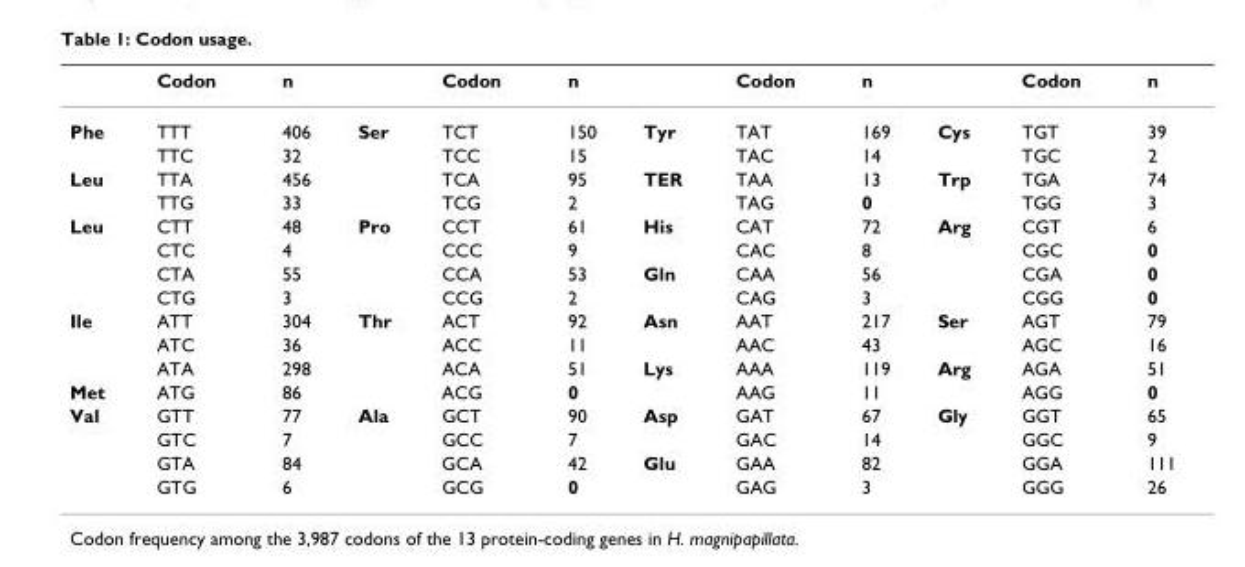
<table><thead><tr><td></td><td>Codon</td><td>n</td><td></td><td>Codon</td><td>n</td><td></td><td>Codon</td><td>n</td><td></td><td>Codon</td><td>n</td></tr></thead><tbody><tr><td rowspan="2">Phe</td><td>TTT</td><td>406</td><td>Ser</td><td>TCT</td><td>150</td><td>Tyr</td><td>TAT</td><td>169</td><td>Cys</td><td>TGT</td><td>39</td></tr><tr><td>TTC</td><td>32</td><td></td><td>TCC</td><td>15</td><td></td><td>TAC</td><td>14</td><td></td><td>TGC</td><td>2</td></tr><tr><td rowspan="2">Leu</td><td>TTA</td><td>456</td><td></td><td>TCA</td><td>95</td><td>TER</td><td>TAA</td><td>13</td><td>Trp</td><td>TGA</td><td>74</td></tr><tr><td>TTG</td><td>33</td><td></td><td>TCG</td><td>2</td><td></td><td>TAG</td><td>0</td><td></td><td>TGG</td><td>3</td></tr><tr><td rowspan="4">Leu</td><td>CTT</td><td>48</td><td>Pro</td><td>CCT</td><td>61</td><td>His</td><td>CAT</td><td>72</td><td>Arg</td><td>CGT</td><td>6</td></tr><tr><td>CTC</td><td>4</td><td></td><td>CCC</td><td>9</td><td></td><td>CAC</td><td>8</td><td></td><td>CGC</td><td>0</td></tr><tr><td>CTA</td><td>55</td><td></td><td>CCA</td><td>53</td><td>Gln</td><td>CAA</td><td>56</td><td></td><td>CGA</td><td>0</td></tr><tr><td>CTG</td><td>3</td><td></td><td>CCG</td><td>2</td><td></td><td>CAG</td><td>3</td><td></td><td>CGG</td><td>0</td></tr><tr><td rowspan="3">Ile</td><td>ATT</td><td>304</td><td>Thr</td><td>ACT</td><td>92</td><td>Asn</td><td>AAT</td><td>217</td><td>Ser</td><td>AGT</td><td>79</td></tr><tr><td>ATC</td><td>36</td><td></td><td>ACC</td><td>11</td><td></td><td>AAC</td><td>43</td><td></td><td>AGC</td><td>16</td></tr><tr><td>ATA</td><td>298</td><td></td><td>ACA</td><td>51</td><td>Lys</td><td>AAA</td><td>119</td><td>Arg</td><td>AGA</td><td>51</td></tr><tr><td>Met</td><td>ATG</td><td>86</td><td></td><td>ACG</td><td>0</td><td></td><td>AAG</td><td>11</td><td></td><td>AGG</td><td>0</td></tr><tr><td rowspan="4">Val</td><td>GTT</td><td>77</td><td>Ala</td><td>GCT</td><td>90</td><td>Asp</td><td>GAT</td><td>67</td><td>Gly</td><td>GGT</td><td>65</td></tr><tr><td>GTC</td><td>7</td><td></td><td>GCC</td><td>7</td><td></td><td>GAC</td><td>14</td><td></td><td>GGC</td><td>9</td></tr><tr><td>GTA</td><td>84</td><td></td><td>GCA</td><td>42</td><td>Glu</td><td>GAA</td><td>82</td><td></td><td>GGA</td><td>111</td></tr><tr><td>GTG</td><td>6</td><td></td><td>GCG</td><td>0</td><td></td><td>GAG</td><td>3</td><td></td><td>GGG</td><td>26</td></tr></tbody></table>